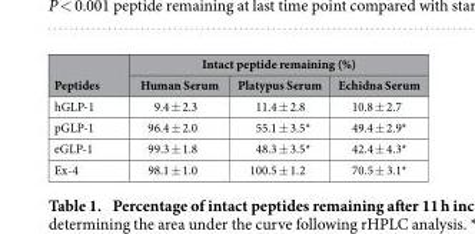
<table><thead><tr><td rowspan="2">Peptides</td><td colspan="3">Intact peptide remaining (%)</td></tr><tr><td>Human Serum</td><td>Platypus Serum</td><td>Echidna Serum</td></tr></thead><tbody><tr><td>hGLP-1</td><td>9.4 ± 2.3</td><td>11.4 ± 2.8</td><td>10.8 ± 2.7</td></tr><tr><td>pGLP-1</td><td>96.4 ± 2.0</td><td>55.1 ± 3.5*</td><td>49.4 ± 2.9*</td></tr><tr><td>eGLP-1</td><td>99.3 ± 1.8</td><td>48.3 ± 3.5*</td><td>42.4 ± 4.3*</td></tr><tr><td>Ex-4</td><td>98.1 ± 1.0</td><td>100.5 ± 1.2</td><td>70.5 ± 3.1*</td></tr></tbody></table>